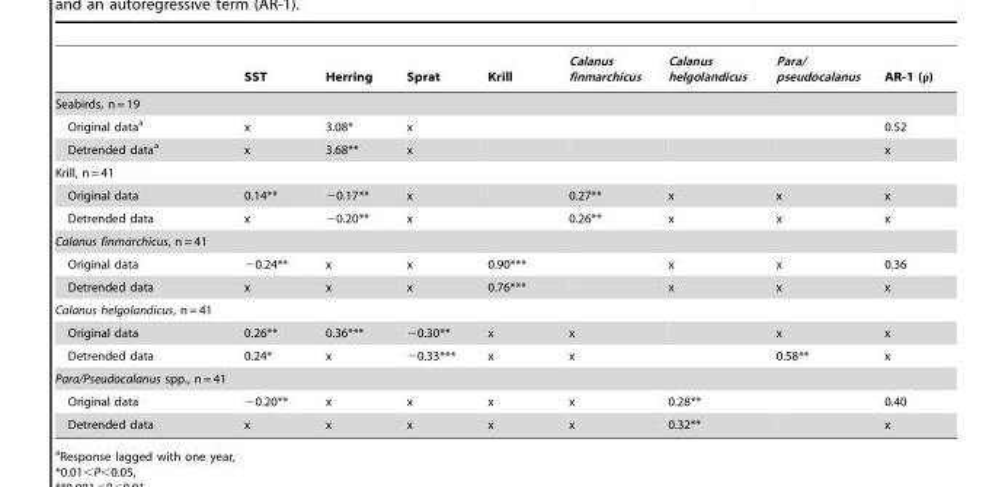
<table><thead><tr><td></td><td>SST</td><td>Herring</td><td>Sprat</td><td>Krill</td><td>Calanus finmarchicus</td><td>Calanus helgolandicus</td><td>Para/ pseudocalanus</td><td>AR-1 (ρ)</td></tr></thead><tbody><tr><td colspan="9">Seabirds, n = 19</td></tr><tr><td>Original data<sup>a</sup></td><td>x</td><td>3.08*</td><td>x</td><td></td><td></td><td></td><td></td><td>0.52</td></tr><tr><td>Detrended data<sup>a</sup></td><td>x</td><td>3.68**</td><td>x</td><td></td><td></td><td></td><td></td><td>x</td></tr><tr><td colspan="9">Krill, n = 41</td></tr><tr><td>Original data</td><td>0.14**</td><td>−0.17**</td><td>x</td><td></td><td>0.27**</td><td>x</td><td>x</td><td>x</td></tr><tr><td>Detrended data</td><td>x</td><td>−0.20**</td><td>x</td><td></td><td>0.26**</td><td>x</td><td>x</td><td>x</td></tr><tr><td colspan="9">Calanus finmarchicus, n = 41</td></tr><tr><td>Original data</td><td>−0.24**</td><td>x</td><td>x</td><td>0.90***</td><td></td><td>x</td><td>x</td><td>0.36</td></tr><tr><td>Detrended data</td><td>x</td><td>x</td><td>x</td><td>0.76***</td><td></td><td>x</td><td>x</td><td>x</td></tr><tr><td colspan="9">Calanus helgolandicus, n = 41</td></tr><tr><td>Original data</td><td>0.26**</td><td>0.36***</td><td>−0.30**</td><td>x</td><td>x</td><td></td><td>x</td><td>x</td></tr><tr><td>Detrended data</td><td>0.24*</td><td>x</td><td>−0.33***</td><td>x</td><td>x</td><td></td><td>0.58**</td><td>x</td></tr><tr><td colspan="9">Para/Pseudocalanus spp., n = 41</td></tr><tr><td>Original data</td><td>−0.20**</td><td>x</td><td>x</td><td>x</td><td>x</td><td>0.28**</td><td></td><td>0.40</td></tr><tr><td>Detrended data</td><td>x</td><td>x</td><td>x</td><td>x</td><td>x</td><td>0.32**</td><td></td><td>x</td></tr></tbody></table>